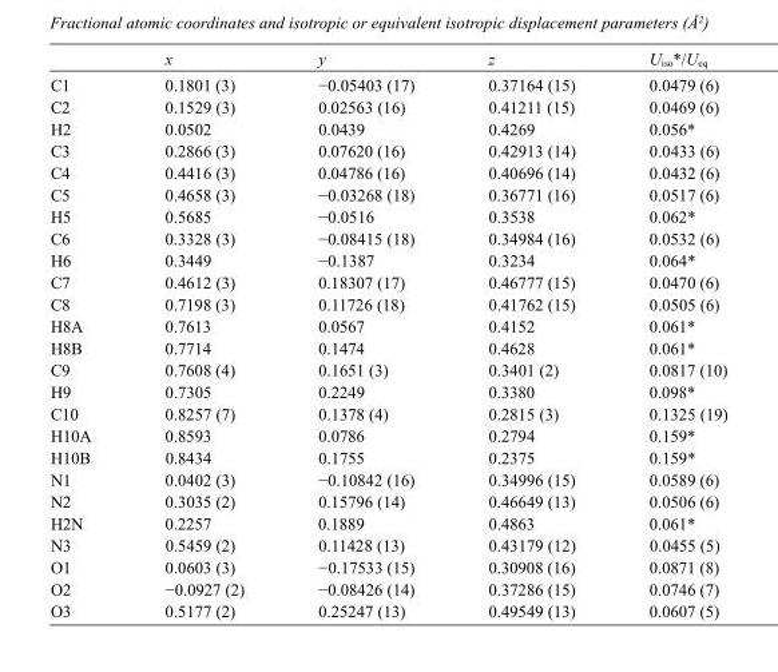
<table><thead><tr><td></td><td>x</td><td>y</td><td>z</td><td>U<sub>iso</sub>*/U<sub>eq</sub></td></tr></thead><tbody><tr><td>C1</td><td>0.1801 (3)</td><td>−0.05403 (17)</td><td>0.37164 (15)</td><td>0.0479 (6)</td></tr><tr><td>C2</td><td>0.1529 (3)</td><td>0.02563 (16)</td><td>0.41211 (15)</td><td>0.0469 (6)</td></tr><tr><td>H2</td><td>0.0502</td><td>0.0439</td><td>0.4269</td><td>0.056*</td></tr><tr><td>C3</td><td>0.2866 (3)</td><td>0.07620 (16)</td><td>0.42913 (14)</td><td>0.0433 (6)</td></tr><tr><td>C4</td><td>0.4416 (3)</td><td>0.04786 (16)</td><td>0.40696 (14)</td><td>0.0432 (6)</td></tr><tr><td>C5</td><td>0.4658 (3)</td><td>−0.03268 (18)</td><td>0.36771 (16)</td><td>0.0517 (6)</td></tr><tr><td>H5</td><td>0.5685</td><td>−0.0516</td><td>0.3538</td><td>0.062*</td></tr><tr><td>C6</td><td>0.3328 (3)</td><td>−0.08415 (18)</td><td>0.34984 (16)</td><td>0.0532 (6)</td></tr><tr><td>H6</td><td>0.3449</td><td>−0.1387</td><td>0.3234</td><td>0.064*</td></tr><tr><td>C7</td><td>0.4612 (3)</td><td>0.18307 (17)</td><td>0.46777 (15)</td><td>0.0470 (6)</td></tr><tr><td>C8</td><td>0.7198 (3)</td><td>0.11726 (18)</td><td>0.41762 (15)</td><td>0.0505 (6)</td></tr><tr><td>H8A</td><td>0.7613</td><td>0.0567</td><td>0.4152</td><td>0.061*</td></tr><tr><td>H8B</td><td>0.7714</td><td>0.1474</td><td>0.4628</td><td>0.061*</td></tr><tr><td>C9</td><td>0.7608 (4)</td><td>0.1651 (3)</td><td>0.3401 (2)</td><td>0.0817 (10)</td></tr><tr><td>H9</td><td>0.7305</td><td>0.2249</td><td>0.3380</td><td>0.098*</td></tr><tr><td>C10</td><td>0.8257 (7)</td><td>0.1378 (4)</td><td>0.2815 (3)</td><td>0.1325 (19)</td></tr><tr><td>H10A</td><td>0.8593</td><td>0.0786</td><td>0.2794</td><td>0.159*</td></tr><tr><td>H10B</td><td>0.8434</td><td>0.1755</td><td>0.2375</td><td>0.159*</td></tr><tr><td>N1</td><td>0.0402 (3)</td><td>−0.10842 (16)</td><td>0.34996 (15)</td><td>0.0589 (6)</td></tr><tr><td>N2</td><td>0.3035 (2)</td><td>0.15796 (14)</td><td>0.46649 (13)</td><td>0.0506 (6)</td></tr><tr><td>H2N</td><td>0.2257</td><td>0.1889</td><td>0.4863</td><td>0.061*</td></tr><tr><td>N3</td><td>0.5459 (2)</td><td>0.11428 (13)</td><td>0.43179 (12)</td><td>0.0455 (5)</td></tr><tr><td>O1</td><td>0.0603 (3)</td><td>−0.17533 (15)</td><td>0.30908 (16)</td><td>0.0871 (8)</td></tr><tr><td>O2</td><td>−0.0927 (2)</td><td>−0.08426 (14)</td><td>0.37286 (15)</td><td>0.0746 (7)</td></tr><tr><td>O3</td><td>0.5177 (2)</td><td>0.25247 (13)</td><td>0.49549 (13)</td><td>0.0607 (5)</td></tr></tbody></table>